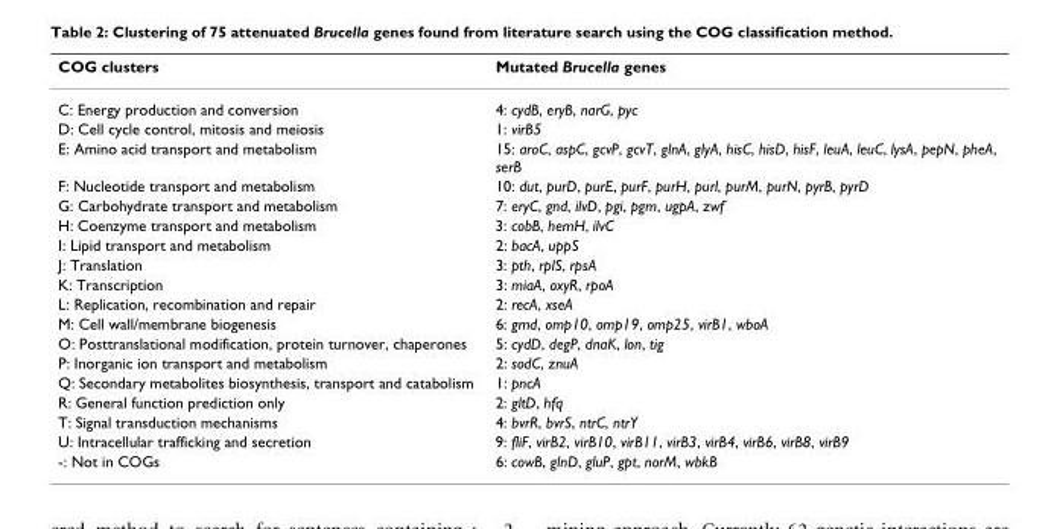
<table><thead><tr><td>COG clusters</td><td>Mutated Brucella genes</td></tr></thead><tbody><tr><td>C: Energy production and conversion</td><td>4: cydB, eryB, narG, pyc</td></tr><tr><td>D: Cell cycle control, mitosis and meiosis</td><td>1: virB5</td></tr><tr><td>E: Amino acid transport and metabolism</td><td>15: aroC, aspC, gcvP, gcvT, glnA, glyA, hisC, hisD, hisF, leuA, leuC, lysA, pepN, pheA, serB</td></tr><tr><td>F: Nucleotide transport and metabolism</td><td>10: dut, purD, purE, purF, purH, purl, purM, purN, pyrB, pyrD</td></tr><tr><td>G: Carbohydrate transport and metabolism</td><td>7: eryC, gnd, ilvD, pgi, pgm, ugpA, zwf</td></tr><tr><td>H: Coenzyme transport and metabolism</td><td>3: cobB, hemH, ilvC</td></tr><tr><td>I: Lipid transport and metabolism</td><td>2: bacA, uppS</td></tr><tr><td>J: Translation</td><td>3: pth, rplS, rpsA</td></tr><tr><td>K: Transcription</td><td>3: miaA, oxyR, rpoA</td></tr><tr><td>L: Replication, recombination and repair</td><td>2: recA, xseA</td></tr><tr><td>M: Cell wall/membrane biogenesis</td><td>6: gmd, omp10, omp19, omp25, virB1, wboA</td></tr><tr><td>O: Posttranslational modification, protein turnover, chaperones</td><td>5: cydD, degP, dnaK, lon, tig</td></tr><tr><td>P: Inorganic ion transport and metabolism</td><td>2: sodC, znuA</td></tr><tr><td>Q: Secondary metabolites biosynthesis, transport and catabolism</td><td>1: pncA</td></tr><tr><td>R: General function prediction only</td><td>2: gltD, hfq</td></tr><tr><td>T: Signal transduction mechanisms</td><td>4: bvrR, bvrS, ntrC, ntrY</td></tr><tr><td>U: Intracellular trafficking and secretion</td><td>9: fliF, virB2, virB10, virB11, virB3, virB4, virB6, virB8, virB9</td></tr><tr><td>-: Not in COGs</td><td>6: cowB, glnD, gluP, gpt, norM, wbkB</td></tr></tbody></table>